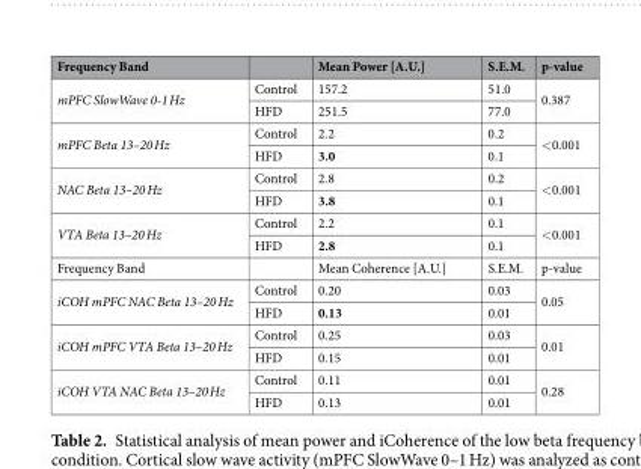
<table><thead><tr><td>Frequency Band</td><td></td><td>Mean Power [A.U.]</td><td>S.E.M.</td><td>p-value</td></tr></thead><tbody><tr><td rowspan="2">mPFC SlowWave 0-1 Hz</td><td>Control</td><td>157.2</td><td>51.0</td><td rowspan="2">0.387</td></tr><tr><td>HFD</td><td>251.5</td><td>77.0</td></tr><tr><td rowspan="2">mPFC Beta 13–20 Hz</td><td>Control</td><td>2.2</td><td>0.2</td><td rowspan="2">&lt;0.001</td></tr><tr><td>HFD</td><td>3.0</td><td>0.1</td></tr><tr><td rowspan="2">NAC Beta 13–20 Hz</td><td>Control</td><td>2.8</td><td>0.2</td><td rowspan="2">&lt;0.001</td></tr><tr><td>HFD</td><td>3.8</td><td>0.1</td></tr><tr><td rowspan="2">VTA Beta 13–20 Hz</td><td>Control</td><td>2.2</td><td>0.1</td><td rowspan="2">&lt;0.001</td></tr><tr><td>HFD</td><td>2.8</td><td>0.1</td></tr><tr><td>Frequency Band</td><td></td><td>Mean Coherence [A.U.]</td><td>S.E.M.</td><td>p-value</td></tr><tr><td rowspan="2">iCOH mPFC NAC Beta 13–20 Hz</td><td>Control</td><td>0.20</td><td>0.03</td><td rowspan="2">0.05</td></tr><tr><td>HFD</td><td>0.13</td><td>0.01</td></tr><tr><td rowspan="2">iCOH mPFC VTA Beta 13–20 Hz</td><td>Control</td><td>0.25</td><td>0.03</td><td rowspan="2">0.01</td></tr><tr><td>HFD</td><td>0.15</td><td>0.01</td></tr><tr><td rowspan="2">iCOH VTA NAC Beta 13–20 Hz</td><td>Control</td><td>0.11</td><td>0.01</td><td rowspan="2">0.28</td></tr><tr><td>HFD</td><td>0.13</td><td>0.01</td></tr></tbody></table>